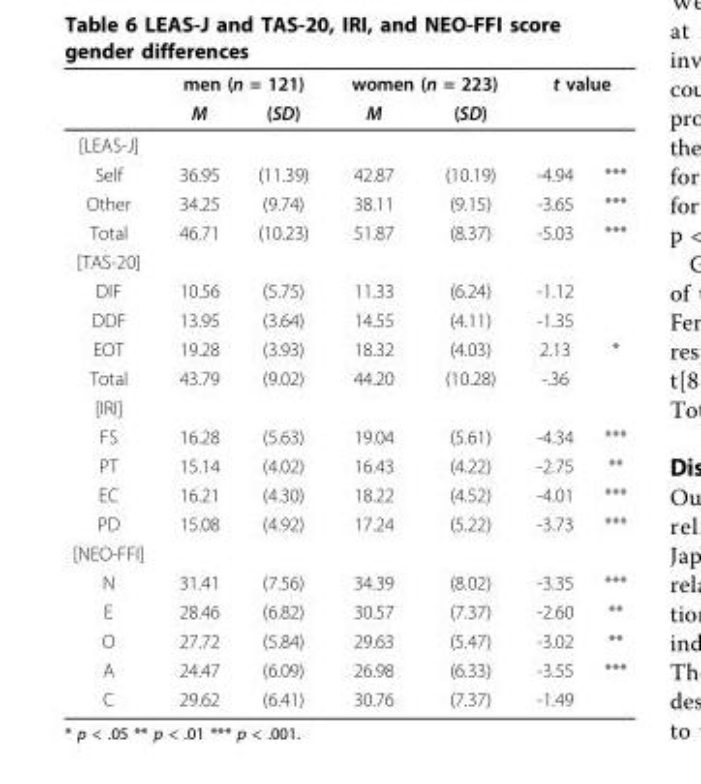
<table><thead><tr><td rowspan="2"></td><td colspan="2">men (n = 121)</td><td colspan="2">women (n = 223)</td><td colspan="2">t value</td></tr><tr><td>M</td><td>(SD)</td><td>M</td><td>(SD)</td><td></td><td></td></tr></thead><tbody><tr><td colspan="7">[LEAS-J]</td></tr><tr><td>Self</td><td>36.95</td><td>(11.39)</td><td>42.87</td><td>(10.19)</td><td>-4.94</td><td>***</td></tr><tr><td>Other</td><td>34.25</td><td>(9.74)</td><td>38.11</td><td>(9.15)</td><td>-3.65</td><td>***</td></tr><tr><td>Total</td><td>46.71</td><td>(10.23)</td><td>51.87</td><td>(8.37)</td><td>-5.03</td><td>***</td></tr><tr><td colspan="7">[TAS-20]</td></tr><tr><td>DIF</td><td>10.56</td><td>(5.75)</td><td>11.33</td><td>(6.24)</td><td>-1.12</td><td></td></tr><tr><td>DDF</td><td>13.95</td><td>(3.64)</td><td>14.55</td><td>(4.11)</td><td>-1.35</td><td></td></tr><tr><td>EOT</td><td>19.28</td><td>(3.93)</td><td>18.32</td><td>(4.03)</td><td>2.13</td><td>*</td></tr><tr><td>Total</td><td>43.79</td><td>(9.02)</td><td>44.20</td><td>(10.28)</td><td>-.36</td><td></td></tr><tr><td colspan="7">[IRI]</td></tr><tr><td>FS</td><td>16.28</td><td>(5.63)</td><td>19.04</td><td>(5.61)</td><td>-4.34</td><td>***</td></tr><tr><td>PT</td><td>15.14</td><td>(4.02)</td><td>16.43</td><td>(4.22)</td><td>-2.75</td><td>**</td></tr><tr><td>EC</td><td>16.21</td><td>(4.30)</td><td>18.22</td><td>(4.52)</td><td>-4.01</td><td>***</td></tr><tr><td>PD</td><td>15.08</td><td>(4.92)</td><td>17.24</td><td>(5.22)</td><td>-3.73</td><td>***</td></tr><tr><td colspan="7">[NEO-FFI]</td></tr><tr><td>N</td><td>31.41</td><td>(7.56)</td><td>34.39</td><td>(8.02)</td><td>-3.35</td><td>***</td></tr><tr><td>E</td><td>28.46</td><td>(6.82)</td><td>30.57</td><td>(7.37)</td><td>-2.60</td><td>**</td></tr><tr><td>O</td><td>27.72</td><td>(5.84)</td><td>29.63</td><td>(5.47)</td><td>-3.02</td><td>**</td></tr><tr><td>A</td><td>24.47</td><td>(6.09)</td><td>26.98</td><td>(6.33)</td><td>-3.55</td><td>***</td></tr><tr><td>C</td><td>29.62</td><td>(6.41)</td><td>30.76</td><td>(7.37)</td><td>-1.49</td><td></td></tr></tbody></table>